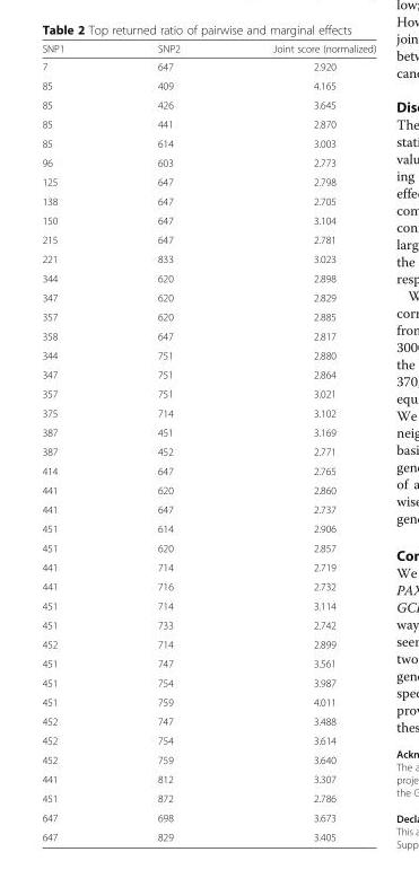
<table><thead><tr><td>SNP1</td><td>SNP2</td><td>Joint score (normalized)</td></tr></thead><tbody><tr><td>7</td><td>647</td><td>2.920</td></tr><tr><td>85</td><td>409</td><td>4.165</td></tr><tr><td>85</td><td>426</td><td>3.645</td></tr><tr><td>85</td><td>441</td><td>2.870</td></tr><tr><td>85</td><td>614</td><td>3.003</td></tr><tr><td>96</td><td>603</td><td>2.773</td></tr><tr><td>125</td><td>647</td><td>2.798</td></tr><tr><td>138</td><td>647</td><td>2.705</td></tr><tr><td>150</td><td>647</td><td>3.104</td></tr><tr><td>215</td><td>647</td><td>2.781</td></tr><tr><td>221</td><td>833</td><td>3.023</td></tr><tr><td>344</td><td>620</td><td>2.898</td></tr><tr><td>347</td><td>620</td><td>2.829</td></tr><tr><td>357</td><td>620</td><td>2.885</td></tr><tr><td>358</td><td>647</td><td>2.817</td></tr><tr><td>344</td><td>751</td><td>2.880</td></tr><tr><td>347</td><td>751</td><td>2.864</td></tr><tr><td>357</td><td>751</td><td>3.021</td></tr><tr><td>375</td><td>714</td><td>3.102</td></tr><tr><td>387</td><td>451</td><td>3.169</td></tr><tr><td>387</td><td>452</td><td>2.771</td></tr><tr><td>414</td><td>647</td><td>2.765</td></tr><tr><td>441</td><td>620</td><td>2.860</td></tr><tr><td>441</td><td>647</td><td>2.737</td></tr><tr><td>451</td><td>614</td><td>2.906</td></tr><tr><td>451</td><td>620</td><td>2.857</td></tr><tr><td>441</td><td>714</td><td>2.719</td></tr><tr><td>441</td><td>716</td><td>2.732</td></tr><tr><td>451</td><td>714</td><td>3.114</td></tr><tr><td>451</td><td>733</td><td>2.742</td></tr><tr><td>452</td><td>714</td><td>2.899</td></tr><tr><td>451</td><td>747</td><td>3.561</td></tr><tr><td>451</td><td>754</td><td>3.987</td></tr><tr><td>451</td><td>759</td><td>4.011</td></tr><tr><td>452</td><td>747</td><td>3.488</td></tr><tr><td>452</td><td>754</td><td>3.614</td></tr><tr><td>452</td><td>759</td><td>3.640</td></tr><tr><td>441</td><td>812</td><td>3.307</td></tr><tr><td>451</td><td>872</td><td>2.786</td></tr><tr><td>647</td><td>698</td><td>3.673</td></tr><tr><td>647</td><td>829</td><td>3.405</td></tr></tbody></table>